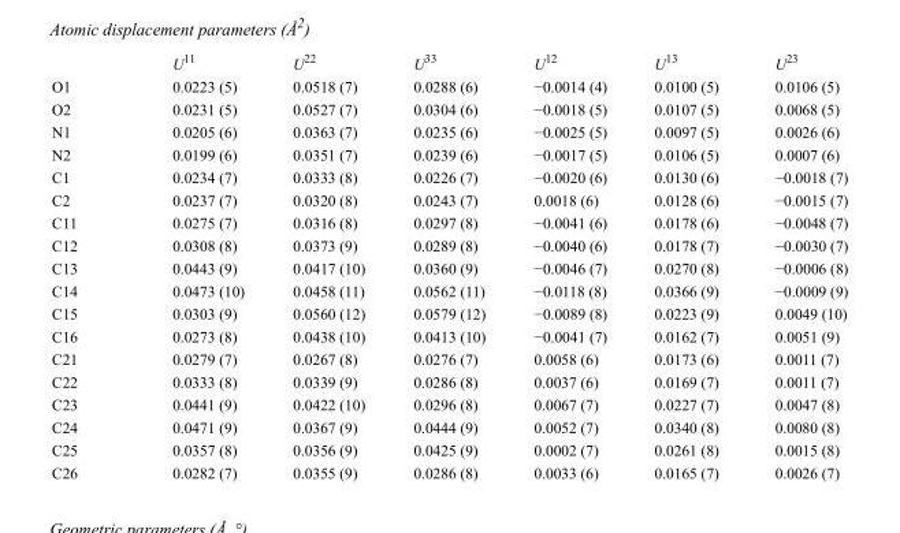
<table><thead><tr><td></td><td>U<sup>11</sup></td><td>U<sup>22</sup></td><td>U<sup>33</sup></td><td>U<sup>12</sup></td><td>U<sup>13</sup></td><td>U<sup>23</sup></td></tr></thead><tbody><tr><td>O1</td><td>0.0223 (5)</td><td>0.0518 (7)</td><td>0.0288 (6)</td><td>−0.0014 (4)</td><td>0.0100 (5)</td><td>0.0106 (5)</td></tr><tr><td>O2</td><td>0.0231 (5)</td><td>0.0527 (7)</td><td>0.0304 (6)</td><td>−0.0018 (5)</td><td>0.0107 (5)</td><td>0.0068 (5)</td></tr><tr><td>N1</td><td>0.0205 (6)</td><td>0.0363 (7)</td><td>0.0235 (6)</td><td>−0.0025 (5)</td><td>0.0097 (5)</td><td>0.0026 (6)</td></tr><tr><td>N2</td><td>0.0199 (6)</td><td>0.0351 (7)</td><td>0.0239 (6)</td><td>−0.0017 (5)</td><td>0.0106 (5)</td><td>0.0007 (6)</td></tr><tr><td>C1</td><td>0.0234 (7)</td><td>0.0333 (8)</td><td>0.0226 (7)</td><td>−0.0020 (6)</td><td>0.0130 (6)</td><td>−0.0018 (7)</td></tr><tr><td>C2</td><td>0.0237 (7)</td><td>0.0320 (8)</td><td>0.0243 (7)</td><td>0.0018 (6)</td><td>0.0128 (6)</td><td>−0.0015 (7)</td></tr><tr><td>C11</td><td>0.0275 (7)</td><td>0.0316 (8)</td><td>0.0297 (8)</td><td>−0.0041 (6)</td><td>0.0178 (6)</td><td>−0.0048 (7)</td></tr><tr><td>C12</td><td>0.0308 (8)</td><td>0.0373 (9)</td><td>0.0289 (8)</td><td>−0.0040 (6)</td><td>0.0178 (7)</td><td>−0.0030 (7)</td></tr><tr><td>C13</td><td>0.0443 (9)</td><td>0.0417 (10)</td><td>0.0360 (9)</td><td>−0.0046 (7)</td><td>0.0270 (8)</td><td>−0.0006 (8)</td></tr><tr><td>C14</td><td>0.0473 (10)</td><td>0.0458 (11)</td><td>0.0562 (11)</td><td>−0.0118 (8)</td><td>0.0366 (9)</td><td>−0.0009 (9)</td></tr><tr><td>C15</td><td>0.0303 (9)</td><td>0.0560 (12)</td><td>0.0579 (12)</td><td>−0.0089 (8)</td><td>0.0223 (9)</td><td>0.0049 (10)</td></tr><tr><td>C16</td><td>0.0273 (8)</td><td>0.0438 (10)</td><td>0.0413 (10)</td><td>−0.0041 (7)</td><td>0.0162 (7)</td><td>0.0051 (9)</td></tr><tr><td>C21</td><td>0.0279 (7)</td><td>0.0267 (8)</td><td>0.0276 (7)</td><td>0.0058 (6)</td><td>0.0173 (6)</td><td>0.0011 (7)</td></tr><tr><td>C22</td><td>0.0333 (8)</td><td>0.0339 (9)</td><td>0.0286 (8)</td><td>0.0037 (6)</td><td>0.0169 (7)</td><td>0.0011 (7)</td></tr><tr><td>C23</td><td>0.0441 (9)</td><td>0.0422 (10)</td><td>0.0296 (8)</td><td>0.0067 (7)</td><td>0.0227 (7)</td><td>0.0047 (8)</td></tr><tr><td>C24</td><td>0.0471 (9)</td><td>0.0367 (9)</td><td>0.0444 (9)</td><td>0.0052 (7)</td><td>0.0340 (8)</td><td>0.0080 (8)</td></tr><tr><td>C25</td><td>0.0357 (8)</td><td>0.0356 (9)</td><td>0.0425 (9)</td><td>0.0002 (7)</td><td>0.0261 (8)</td><td>0.0015 (8)</td></tr><tr><td>C26</td><td>0.0282 (7)</td><td>0.0355 (9)</td><td>0.0286 (8)</td><td>0.0033 (6)</td><td>0.0165 (7)</td><td>0.0026 (7)</td></tr></tbody></table>